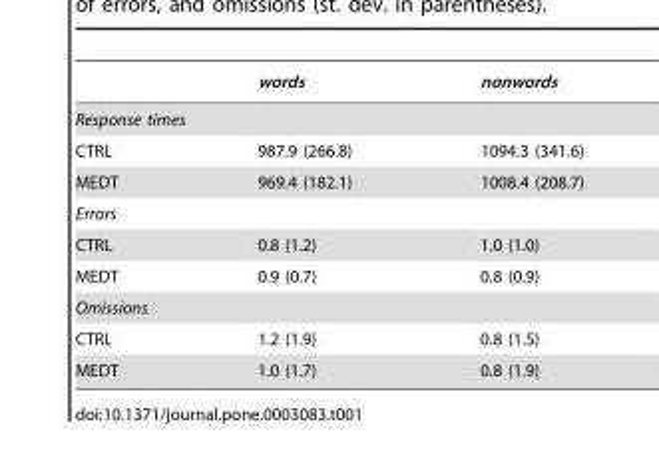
<table><thead><tr><td></td><td>words</td><td>nonwords</td></tr></thead><tbody><tr><td colspan="3">Response times</td></tr><tr><td>CTRL</td><td>987.9 (266.8)</td><td>1094.3 (341.6)</td></tr><tr><td>MEDT</td><td>969.4 (182.1)</td><td>1008.4 (208.7)</td></tr><tr><td colspan="3">Errors</td></tr><tr><td>CTRL</td><td>0.8 (1.2)</td><td>1.0 (1.0)</td></tr><tr><td>MEDT</td><td>0.9 (0.7)</td><td>0.8 (0.9)</td></tr><tr><td colspan="3">Omissions</td></tr><tr><td>CTRL</td><td>1.2 (1.9)</td><td>0.8 (1.5)</td></tr><tr><td>MEDT</td><td>1.0 (1.7)</td><td>0.8 (1.9)</td></tr></tbody></table>